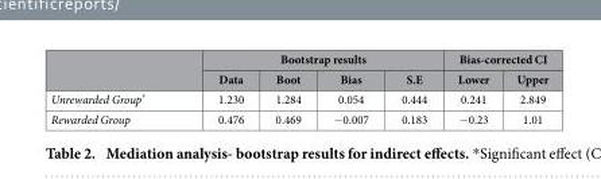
<table><thead><tr><td rowspan="2"></td><td colspan="4">Bootstrap results</td><td colspan="2">Bias-corrected CI</td></tr><tr><td>Data</td><td>Boot</td><td>Bias</td><td>S.E</td><td>Lower</td><td>Upper</td></tr></thead><tbody><tr><td>Unrewarded Group*</td><td>1.230</td><td>1.284</td><td>0.054</td><td>0.444</td><td>0.241</td><td>2.849</td></tr><tr><td>Rewarded Group</td><td>0.476</td><td>0.469</td><td>− 0.007</td><td>0.183</td><td>− 0.23</td><td>1.01</td></tr></tbody></table>